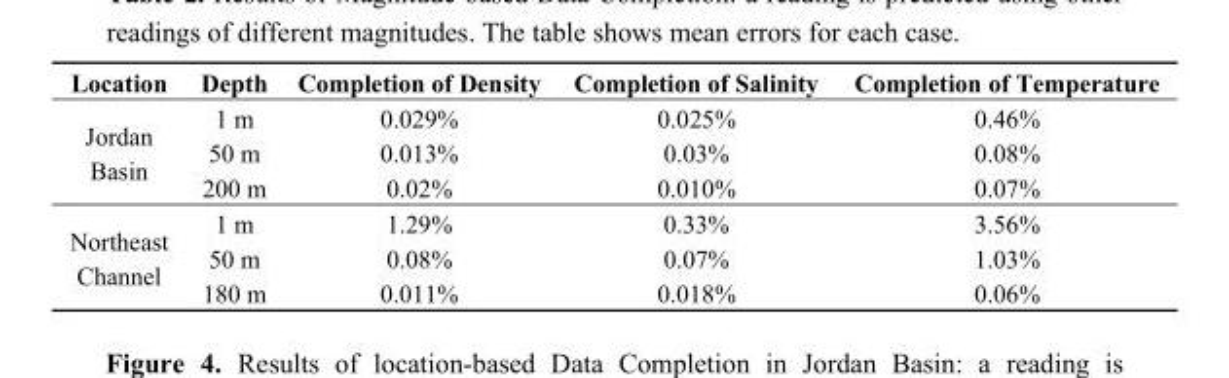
<table><thead><tr><td>Location</td><td>Depth</td><td>Completion of Density</td><td>Completion of Salinity</td><td>Completion of Temperature</td></tr></thead><tbody><tr><td rowspan="3">Jordan Basin</td><td>1 m</td><td>0.029%</td><td>0.025%</td><td>0.46%</td></tr><tr><td>50 m</td><td>0.013%</td><td>0.03%</td><td>0.08%</td></tr><tr><td>200 m</td><td>0.02%</td><td>0.010%</td><td>0.07%</td></tr><tr><td rowspan="3">Northeast Channel</td><td>1 m</td><td>1.29%</td><td>0.33%</td><td>3.56%</td></tr><tr><td>50 m</td><td>0.08%</td><td>0.07%</td><td>1.03%</td></tr><tr><td>180 m</td><td>0.011%</td><td>0.018%</td><td>0.06%</td></tr></tbody></table>